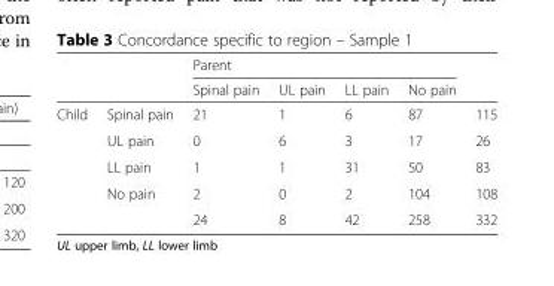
<table><thead><tr><td rowspan="2"></td><td rowspan="2"></td><td colspan="4">Parent</td><td rowspan="2"></td></tr><tr><td>Spinal pain</td><td>UL pain</td><td>LL pain</td><td>No pain</td></tr></thead><tbody><tr><td rowspan="5">Child</td><td>Spinal pain</td><td>21</td><td>1</td><td>6</td><td>87</td><td>115</td></tr><tr><td>UL pain</td><td>0</td><td>6</td><td>3</td><td>17</td><td>26</td></tr><tr><td>LL pain</td><td>1</td><td>1</td><td>31</td><td>50</td><td>83</td></tr><tr><td>No pain</td><td>2</td><td>0</td><td>2</td><td>104</td><td>108</td></tr><tr><td></td><td>24</td><td>8</td><td>42</td><td>258</td><td>332</td></tr></tbody></table>